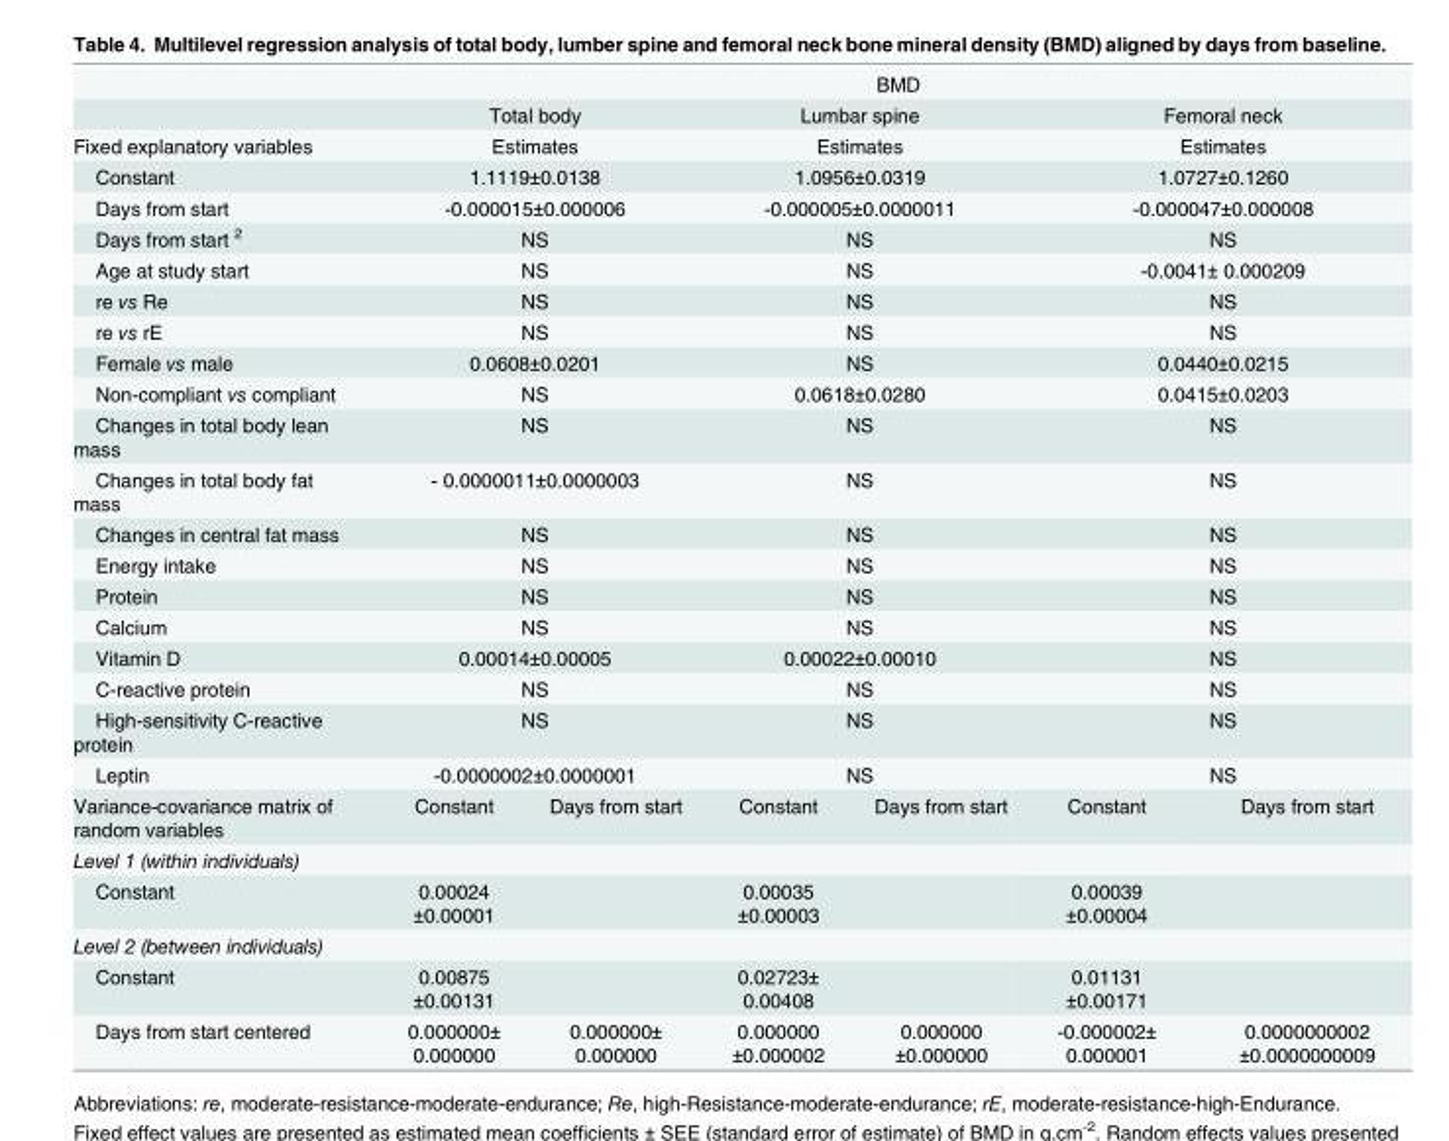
<table><thead><tr><td></td><td colspan="6">BMD</td></tr></thead><tbody><tr><td></td><td colspan="2">Total body</td><td colspan="2">Lumbar spine</td><td colspan="2">Femoral neck</td></tr><tr><td>Fixed explanatory variables</td><td colspan="2">Estimates</td><td colspan="2">Estimates</td><td colspan="2">Estimates</td></tr><tr><td>Constant</td><td colspan="2">1.1119±0.0138</td><td colspan="2">1.0956±0.0319</td><td colspan="2">1.0727±0.1260</td></tr><tr><td>Days from start</td><td colspan="2">-0.000015±0.000006</td><td colspan="2">-0.000005±0.0000011</td><td colspan="2">-0.000047±0.000008</td></tr><tr><td>Days from start <sup>2</sup></td><td colspan="2">NS</td><td colspan="2">NS</td><td colspan="2">NS</td></tr><tr><td>Age at study start</td><td colspan="2">NS</td><td colspan="2">NS</td><td colspan="2">-0.0041± 0.000209</td></tr><tr><td>re vs Re</td><td colspan="2">NS</td><td colspan="2">NS</td><td colspan="2">NS</td></tr><tr><td>re vs rE</td><td colspan="2">NS</td><td colspan="2">NS</td><td colspan="2">NS</td></tr><tr><td>Female vs male</td><td colspan="2">0.0608±0.0201</td><td colspan="2">NS</td><td colspan="2">0.0440±0.0215</td></tr><tr><td>Non-compliant vs compliant</td><td colspan="2">NS</td><td colspan="2">0.0618±0.0280</td><td colspan="2">0.0415±0.0203</td></tr><tr><td>Changes in total body lean mass</td><td colspan="2">NS</td><td colspan="2">NS</td><td colspan="2">NS</td></tr><tr><td>Changes in total body fat mass</td><td colspan="2">- 0.0000011±0.0000003</td><td colspan="2">NS</td><td colspan="2">NS</td></tr><tr><td>Changes in central fat mass</td><td colspan="2">NS</td><td colspan="2">NS</td><td colspan="2">NS</td></tr><tr><td>Energy intake</td><td colspan="2">NS</td><td colspan="2">NS</td><td colspan="2">NS</td></tr><tr><td>Protein</td><td colspan="2">NS</td><td colspan="2">NS</td><td colspan="2">NS</td></tr><tr><td>Calcium</td><td colspan="2">NS</td><td colspan="2">NS</td><td colspan="2">NS</td></tr><tr><td>Vitamin D</td><td colspan="2">0.00014±0.00005</td><td colspan="2">0.00022±0.00010</td><td colspan="2">NS</td></tr><tr><td>C-reactive protein</td><td colspan="2">NS</td><td colspan="2">NS</td><td colspan="2">NS</td></tr><tr><td>High-sensitivity C-reactive protein</td><td colspan="2">NS</td><td colspan="2">NS</td><td colspan="2">NS</td></tr><tr><td>Leptin</td><td colspan="2">-0.0000002±0.0000001</td><td colspan="2">NS</td><td colspan="2">NS</td></tr><tr><td>Variance-covariance matrix of random variables</td><td>Constant</td><td>Days from start</td><td>Constant</td><td>Days from start</td><td>Constant</td><td>Days from start</td></tr><tr><td colspan="7">Level 1 (within individuals)</td></tr><tr><td>Constant</td><td>0.00024 ±0.00001</td><td></td><td>0.00035 ±0.00003</td><td></td><td>0.00039 ±0.00004</td><td></td></tr><tr><td colspan="7">Level 2 (between individuals)</td></tr><tr><td>Constant</td><td>0.00875 ±0.00131</td><td></td><td>0.02723± 0.00408</td><td></td><td>0.01131 ±0.00171</td><td></td></tr><tr><td>Days from start centered</td><td>0.000000± 0.000000</td><td>0.000000± 0.000000</td><td>0.000000 ±0.000002</td><td>0.000000 ±0.000000</td><td>-0.000002± 0.000001</td><td>0.0000000002 ±0.0000000009</td></tr></tbody></table>